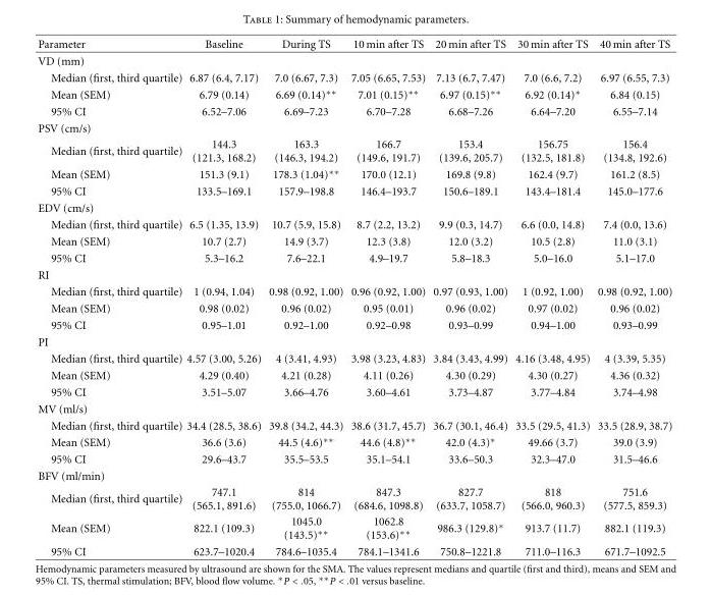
<table><thead><tr><td>Parameter</td><td>Baseline</td><td>During TS</td><td>10 min after TS</td><td>20 min after TS</td><td>30 min after TS</td><td>40 min after TS</td></tr></thead><tbody><tr><td colspan="7">VD (mm)</td></tr><tr><td>Median (first, third quartile)</td><td>6.87 (6.4, 7.17)</td><td>7.0 (6.67, 7.3)</td><td>7.05 (6.65, 7.53)</td><td>7.13 (6.7, 7.47)</td><td>7.0 (6.6, 7.2)</td><td>6.97 (6.55, 7.3)</td></tr><tr><td>Mean (SEM)</td><td>6.79 (0.14)</td><td>6.69 (0.14)∗∗</td><td>7.01 (0.15)∗∗</td><td>6.97 (0.15)∗∗</td><td>6.92 (0.14)∗</td><td>6.84 (0.15)</td></tr><tr><td>95% CI</td><td>6.52–7.06</td><td>6.69–7.23</td><td>6.70–7.28</td><td>6.68–7.26</td><td>6.64–7.20</td><td>6.55–7.14</td></tr><tr><td colspan="7">PSV (cm/s)</td></tr><tr><td>Median (first, third quartile)</td><td>144.3 (121.3, 168.2)</td><td>163.3 (146.3, 194.2)</td><td>166.7 (149.6, 191.7)</td><td>153.4 (139.6, 205.7)</td><td>156.75 (132.5, 181.8)</td><td>156.4 (134.8, 192.6)</td></tr><tr><td>Mean (SEM)</td><td>151.3 (9.1)</td><td>178.3 (1.04)∗∗</td><td>170.0 (12.1)</td><td>169.8 (9.8)</td><td>162.4 (9.7)</td><td>161.2 (8.5)</td></tr><tr><td>95% CI</td><td>133.5–169.1</td><td>157.9–198.8</td><td>146.4–193.7</td><td>150.6–189.1</td><td>143.4–181.4</td><td>145.0–177.6</td></tr><tr><td colspan="7">EDV (cm/s)</td></tr><tr><td>Median (first, third quartile)</td><td>6.5 (1.35, 13.9)</td><td>10.7 (5.9, 15.8)</td><td>8.7 (2.2, 13.2)</td><td>9.9 (0.3, 14.7)</td><td>6.6 (0.0, 14.8)</td><td>7.4 (0.0, 13.6)</td></tr><tr><td>Mean (SEM)</td><td>10.7 (2.7)</td><td>14.9 (3.7)</td><td>12.3 (3.8)</td><td>12.0 (3.2)</td><td>10.5 (2.8)</td><td>11.0 (3.1)</td></tr><tr><td>95% CI</td><td>5.3–16.2</td><td>7.6–22.1</td><td>4.9–19.7</td><td>5.8–18.3</td><td>5.0–16.0</td><td>5.1–17.0</td></tr><tr><td colspan="7">RI</td></tr><tr><td>Median (first, third quartile)</td><td>1 (0.94, 1.04)</td><td>0.98 (0.92, 1.00)</td><td>0.96 (0.92, 1.00)</td><td>0.97 (0.93, 1.00)</td><td>1 (0.92, 1.00)</td><td>0.98 (0.92, 1.00)</td></tr><tr><td>Mean (SEM)</td><td>0.98 (0.02)</td><td>0.96 (0.02)</td><td>0.95 (0.01)</td><td>0.96 (0.02)</td><td>0.97 (0.02)</td><td>0.96 (0.02)</td></tr><tr><td>95% CI</td><td>0.95–1.01</td><td>0.92–1.00</td><td>0.92–0.98</td><td>0.93–0.99</td><td>0.94–1.00</td><td>0.93–0.99</td></tr><tr><td colspan="7">PI</td></tr><tr><td>Median (first, third quartile)</td><td>4.57 (3.00, 5.26)</td><td>4 (3.41, 4.93)</td><td>3.98 (3.23, 4.83)</td><td>3.84 (3.43, 4.99)</td><td>4.16 (3.48, 4.95)</td><td>4 (3.39, 5.35)</td></tr><tr><td>Mean (SEM)</td><td>4.29 (0.40)</td><td>4.21 (0.28)</td><td>4.11 (0.26)</td><td>4.30 (0.29)</td><td>4.30 (0.27)</td><td>4.36 (0.32)</td></tr><tr><td>95% CI</td><td>3.51–5.07</td><td>3.66–4.76</td><td>3.60–4.61</td><td>3.73–4.87</td><td>3.77–4.84</td><td>3.74–4.98</td></tr><tr><td colspan="7">MV (ml/s)</td></tr><tr><td>Median (first, third quartile)</td><td>34.4 (28.5, 38.6)</td><td>39.8 (34.2, 44.3)</td><td>38.6 (31.7, 45.7)</td><td>36.7 (30.1, 46.4)</td><td>33.5 (29.5, 41.3)</td><td>33.5 (28.9, 38.7)</td></tr><tr><td>Mean (SEM)</td><td>36.6 (3.6)</td><td>44.5 (4.6)∗∗</td><td>44.6 (4.8)∗∗</td><td>42.0 (4.3)∗</td><td>49.66 (3.7)</td><td>39.0 (3.9)</td></tr><tr><td>95% CI</td><td>29.6–43.7</td><td>35.5–53.5</td><td>35.1–54.1</td><td>33.6–50.3</td><td>32.3–47.0</td><td>31.5–46.6</td></tr><tr><td colspan="7">BFV (ml/min)</td></tr><tr><td>Median (first, third quartile)</td><td>747.1 (565.1, 891.6)</td><td>814 (755.0, 1066.7)</td><td>847.3 (684.6, 1098.8)</td><td>827.7 (633.7, 1058.7)</td><td>818 (566.0, 960.3)</td><td>751.6 (577.5, 859.3)</td></tr><tr><td>Mean (SEM)</td><td>822.1 (109.3)</td><td>1045.0 (143.5)∗∗</td><td>1062.8 (153.6)∗∗</td><td>986.3 (129.8)∗</td><td>913.7 (11.7)</td><td>882.1 (119.3)</td></tr><tr><td>95% CI</td><td>623.7–1020.4</td><td>784.6–1035.4</td><td>784.1–1341.6</td><td>750.8–1221.8</td><td>711.0–116.3</td><td>671.7–1092.5</td></tr></tbody></table>